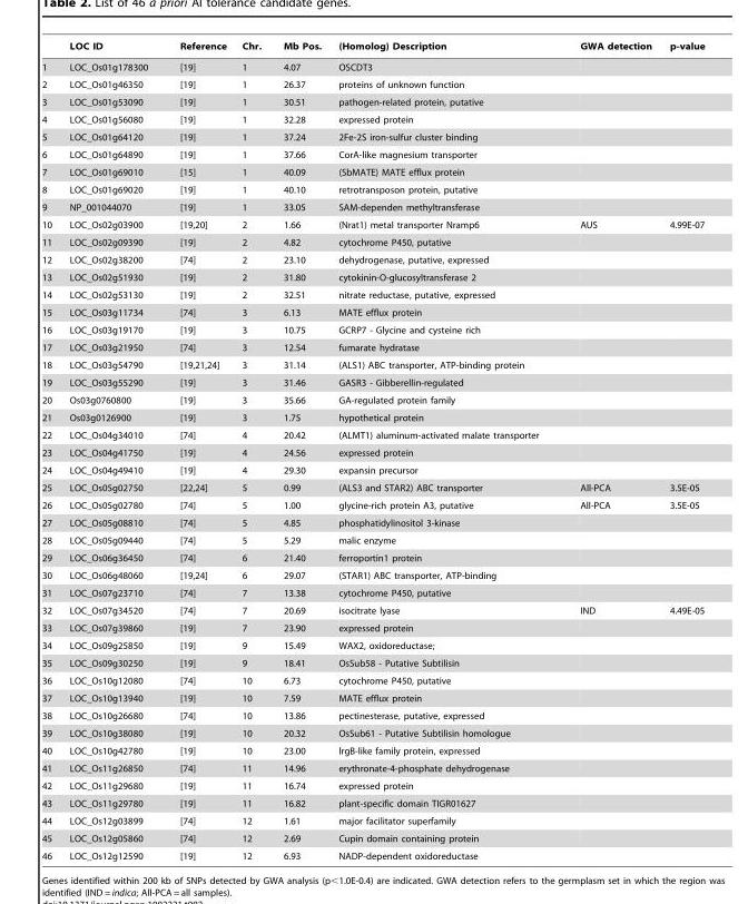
<table><thead><tr><td></td><td>LOC ID</td><td>Reference</td><td>Chr.</td><td>Mb Pos.</td><td>(Homolog) Description</td><td>GWA detection</td><td>p-value</td></tr></thead><tbody><tr><td>1</td><td>LOC_Os01g178300</td><td>[19]</td><td>1</td><td>4.07</td><td>OSCDT3</td><td></td><td></td></tr><tr><td>2</td><td>LOC_Os01g46350</td><td>[19]</td><td>1</td><td>26.37</td><td>proteins of unknown function</td><td></td><td></td></tr><tr><td>3</td><td>LOC_Os01g53090</td><td>[19]</td><td>1</td><td>30.51</td><td>pathogen-related protein, putative</td><td></td><td></td></tr><tr><td>4</td><td>LOC_Os01g56080</td><td>[19]</td><td>1</td><td>32.28</td><td>expressed protein</td><td></td><td></td></tr><tr><td>5</td><td>LOC_Os01g64120</td><td>[19]</td><td>1</td><td>37.24</td><td>2Fe-2S iron-sulfur cluster binding</td><td></td><td></td></tr><tr><td>6</td><td>LOC_Os01g64890</td><td>[19]</td><td>1</td><td>37.66</td><td>CorA-like magnesium transporter</td><td></td><td></td></tr><tr><td>7</td><td>LOC_Os01g69010</td><td>[15]</td><td>1</td><td>40.09</td><td>(SbMATE) MATE efflux protein</td><td></td><td></td></tr><tr><td>8</td><td>LOC_Os01g69020</td><td>[19]</td><td>1</td><td>40.10</td><td>retrotransposon protein, putative</td><td></td><td></td></tr><tr><td>9</td><td>NP_001044070</td><td>[19]</td><td>1</td><td>33.05</td><td>SAM-dependen methyltransferase</td><td></td><td></td></tr><tr><td>10</td><td>LOC_Os02g03900</td><td>[19,20]</td><td>2</td><td>1.66</td><td>(Nrat1) metal transporter Nramp6</td><td>AUS</td><td>4.99E-07</td></tr><tr><td>11</td><td>LOC_Os02g09390</td><td>[19]</td><td>2</td><td>4.82</td><td>cytochrome P450, putative</td><td></td><td></td></tr><tr><td>12</td><td>LOC_Os02g38200</td><td>[74]</td><td>2</td><td>23.10</td><td>dehydrogenase, putative, expressed</td><td></td><td></td></tr><tr><td>13</td><td>LOC_Os02g51930</td><td>[19]</td><td>2</td><td>31.80</td><td>cytokinin-O-glucosyltransferase 2</td><td></td><td></td></tr><tr><td>14</td><td>LOC_Os02g53130</td><td>[19]</td><td>2</td><td>32.51</td><td>nitrate reductase, putative, expressed</td><td></td><td></td></tr><tr><td>15</td><td>LOC_Os03g11734</td><td>[74]</td><td>3</td><td>6.13</td><td>MATE efflux protein</td><td></td><td></td></tr><tr><td>16</td><td>LOC_Os03g19170</td><td>[19]</td><td>3</td><td>10.75</td><td>GCRP7 - Glycine and cysteine rich</td><td></td><td></td></tr><tr><td>17</td><td>LOC_Os03g21950</td><td>[74]</td><td>3</td><td>12.54</td><td>fumarate hydratase</td><td></td><td></td></tr><tr><td>18</td><td>LOC_Os03g54790</td><td>[19,21,24]</td><td>3</td><td>31.14</td><td>(ALS1) ABC transporter, ATP-binding protein</td><td></td><td></td></tr><tr><td>19</td><td>LOC_Os03g55290</td><td>[19]</td><td>3</td><td>31.46</td><td>GASR3 - Gibberellin-regulated</td><td></td><td></td></tr><tr><td>20</td><td>Os03g0760800</td><td>[19]</td><td>3</td><td>35.66</td><td>GA-regulated protein family</td><td></td><td></td></tr><tr><td>21</td><td>Os03g0126900</td><td>[19]</td><td>3</td><td>1.75</td><td>hypothetical protein</td><td></td><td></td></tr><tr><td>22</td><td>LOC_Os04g34010</td><td>[74]</td><td>4</td><td>20.42</td><td>(ALMT1) aluminum-activated malate transporter</td><td></td><td></td></tr><tr><td>23</td><td>LOC_Os04g41750</td><td>[19]</td><td>4</td><td>24.56</td><td>expressed protein</td><td></td><td></td></tr><tr><td>24</td><td>LOC_Os04g49410</td><td>[19]</td><td>4</td><td>29.30</td><td>expansin precursor</td><td></td><td></td></tr><tr><td>25</td><td>LOC_Os05g02750</td><td>[22,24]</td><td>5</td><td>0.99</td><td>(ALS3 and STAR2) ABC transporter</td><td>All-PCA</td><td>3.5E-05</td></tr><tr><td>26</td><td>LOC_Os05g02780</td><td>[74]</td><td>5</td><td>1.00</td><td>glycine-rich protein A3, putative</td><td>All-PCA</td><td>3.5E-05</td></tr><tr><td>27</td><td>LOC_Os05g08810</td><td>[74]</td><td>5</td><td>4.85</td><td>phosphatidylinositol 3-kinase</td><td></td><td></td></tr><tr><td>28</td><td>LOC_Os05g09440</td><td>[74]</td><td>5</td><td>5.29</td><td>malic enzyme</td><td></td><td></td></tr><tr><td>29</td><td>LOC_Os06g36450</td><td>[74]</td><td>6</td><td>21.40</td><td>ferroportin1 protein</td><td></td><td></td></tr><tr><td>30</td><td>LOC_Os06g48060</td><td>[19,24]</td><td>6</td><td>29.07</td><td>(STAR1) ABC transporter, ATP-binding</td><td></td><td></td></tr><tr><td>31</td><td>LOC_Os07g23710</td><td>[74]</td><td>7</td><td>13.38</td><td>cytochrome P450, putative</td><td></td><td></td></tr><tr><td>32</td><td>LOC_Os07g34520</td><td>[74]</td><td>7</td><td>20.69</td><td>isocitrate lyase</td><td>IND</td><td>4.49E-05</td></tr><tr><td>33</td><td>LOC_Os07g39860</td><td>[19]</td><td>7</td><td>23.90</td><td>expressed protein</td><td></td><td></td></tr><tr><td>34</td><td>LOC_Os09g25850</td><td>[19]</td><td>9</td><td>15.49</td><td>WAX2, oxidoreductase;</td><td></td><td></td></tr><tr><td>35</td><td>LOC_Os09g30250</td><td>[19]</td><td>9</td><td>18.41</td><td>OsSub58 - Putative Subtilisin</td><td></td><td></td></tr><tr><td>36</td><td>LOC_Os10g12080</td><td>[74]</td><td>10</td><td>6.73</td><td>cytochrome P450, putative</td><td></td><td></td></tr><tr><td>37</td><td>LOC_Os10g13940</td><td>[19]</td><td>10</td><td>7.59</td><td>MATE efflux protein</td><td></td><td></td></tr><tr><td>38</td><td>LOC_Os10g26680</td><td>[74]</td><td>10</td><td>13.86</td><td>pectinesterase, putative, expressed</td><td></td><td></td></tr><tr><td>39</td><td>LOC_Os10g38080</td><td>[19]</td><td>10</td><td>20.32</td><td>OsSub61 - Putative Subtilisin homologue</td><td></td><td></td></tr><tr><td>40</td><td>LOC_Os10g42780</td><td>[19]</td><td>10</td><td>23.00</td><td>lrgB-like family protein, expressed</td><td></td><td></td></tr><tr><td>41</td><td>LOC_Os11g26850</td><td>[74]</td><td>11</td><td>14.96</td><td>erythronate-4-phosphate dehydrogenase</td><td></td><td></td></tr><tr><td>42</td><td>LOC_Os11g29680</td><td>[19]</td><td>11</td><td>16.74</td><td>expressed protein</td><td></td><td></td></tr><tr><td>43</td><td>LOC_Os11g29780</td><td>[19]</td><td>11</td><td>16.82</td><td>plant-specific domain TIGR01627</td><td></td><td></td></tr><tr><td>44</td><td>LOC_Os12g03899</td><td>[74]</td><td>12</td><td>1.61</td><td>major facilitator superfamily</td><td></td><td></td></tr><tr><td>45</td><td>LOC_Os12g05860</td><td>[74]</td><td>12</td><td>2.69</td><td>Cupin domain containing protein</td><td></td><td></td></tr><tr><td>46</td><td>LOC_Os12g12590</td><td>[19]</td><td>12</td><td>6.93</td><td>NADP-dependent oxidoreductase</td><td></td><td></td></tr></tbody></table>